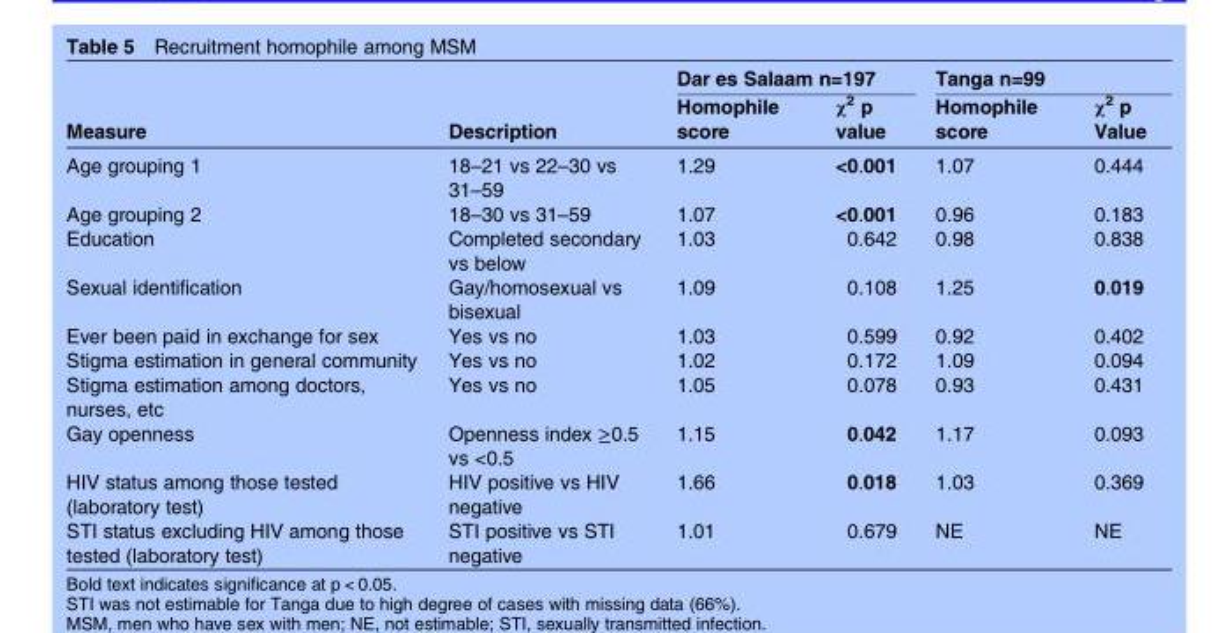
<table><thead><tr><td rowspan="2">Measure</td><td rowspan="2">Description</td><td colspan="2">Dar es Salaam n=197</td><td colspan="2">Tanga n=99</td></tr><tr><td>Homophile score</td><td>χ<sup>2</sup> p value</td><td>Homophile score</td><td>χ<sup>2</sup> p Value</td></tr></thead><tbody><tr><td>Age grouping 1</td><td>18–21 vs 22–30 vs 31–59</td><td>1.29</td><td>&lt;0.001</td><td>1.07</td><td>0.444</td></tr><tr><td>Age grouping 2</td><td>18–30 vs 31–59</td><td>1.07</td><td>&lt;0.001</td><td>0.96</td><td>0.183</td></tr><tr><td>Education</td><td>Completed secondary vs below</td><td>1.03</td><td>0.642</td><td>0.98</td><td>0.838</td></tr><tr><td>Sexual identification</td><td>Gay/homosexual vs bisexual</td><td>1.09</td><td>0.108</td><td>1.25</td><td>0.019</td></tr><tr><td>Ever been paid in exchange for sex</td><td>Yes vs no</td><td>1.03</td><td>0.599</td><td>0.92</td><td>0.402</td></tr><tr><td>Stigma estimation in general community</td><td>Yes vs no</td><td>1.02</td><td>0.172</td><td>1.09</td><td>0.094</td></tr><tr><td>Stigma estimation among doctors, nurses, etc</td><td>Yes vs no</td><td>1.05</td><td>0.078</td><td>0.93</td><td>0.431</td></tr><tr><td>Gay openness</td><td>Openness index ≥0.5 vs &lt;0.5</td><td>1.15</td><td>0.042</td><td>1.17</td><td>0.093</td></tr><tr><td>HIV status among those tested (laboratory test)</td><td>HIV positive vs HIV negative</td><td>1.66</td><td>0.018</td><td>1.03</td><td>0.369</td></tr><tr><td>STI status excluding HIV among those tested (laboratory test)</td><td>STI positive vs STI negative</td><td>1.01</td><td>0.679</td><td>NE</td><td>NE</td></tr></tbody></table>